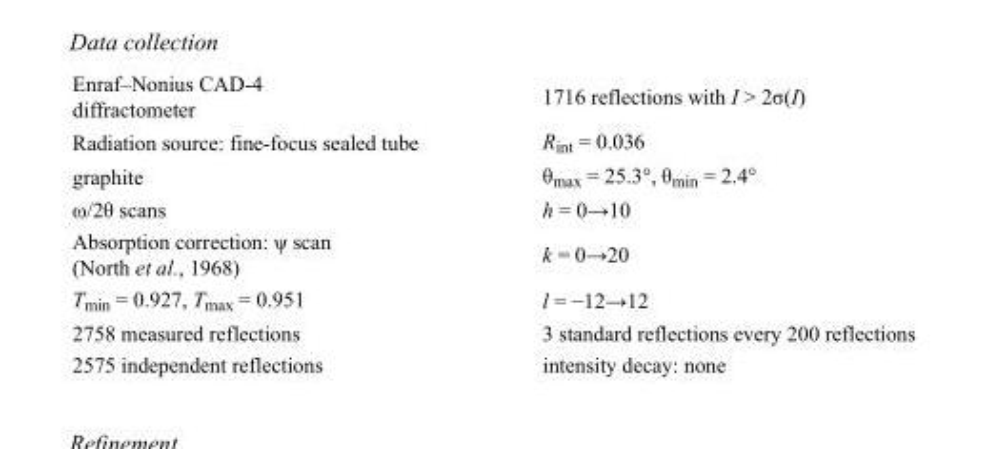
<table><tbody><tr><td>Enraf–Nonius CAD-4 diffractometer</td><td>1716 reflections with I &gt; 2σ(I)</td></tr><tr><td>Radiation source: fine-focus sealed tube</td><td>R<sub>int</sub> = 0.036</td></tr><tr><td>graphite</td><td>θ<sub>max</sub> = 25.3°, θ<sub>min</sub> = 2.4°</td></tr><tr><td>ω/2θ scans</td><td>h = 0→10</td></tr><tr><td>Absorption correction: ψ scan (North et al., 1968)</td><td>k = 0→20</td></tr><tr><td>T<sub>min</sub> = 0.927, T<sub>max</sub> = 0.951</td><td>l = −12→12</td></tr><tr><td>2758 measured reflections</td><td>3 standard reflections every 200 reflections</td></tr><tr><td>2575 independent reflections</td><td>intensity decay: none</td></tr></tbody></table>